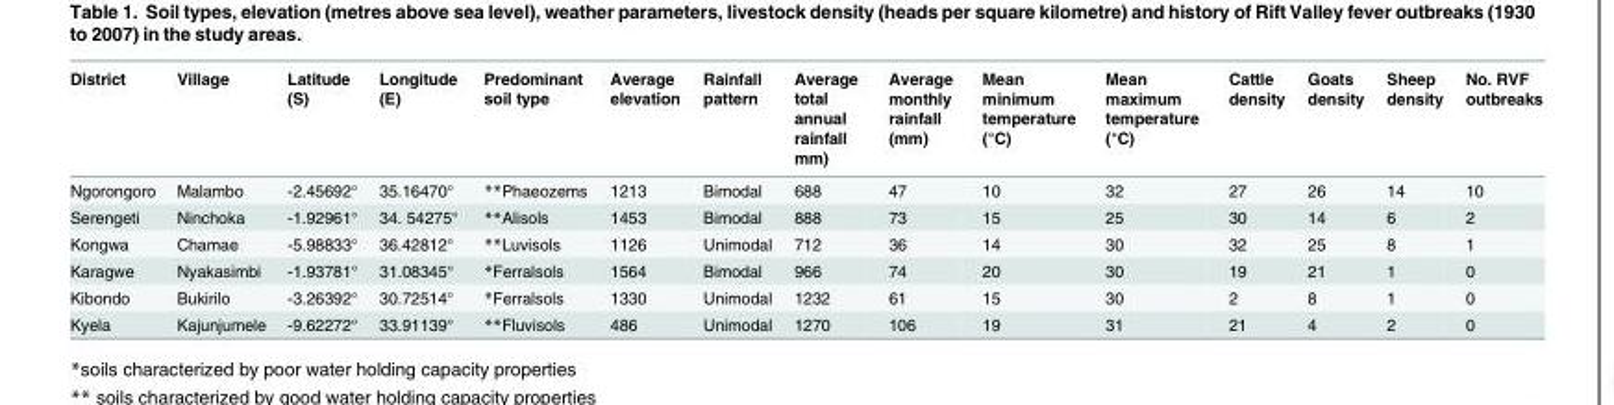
<table><thead><tr><td>District</td><td>Village</td><td>Latitude (S)</td><td>Longitude (E)</td><td>Predominant soil type</td><td>Average elevation</td><td>Rainfall pattern</td><td>Average total annual rainfall mm)</td><td>Average monthly rainfall (mm)</td><td>Mean minimum temperature (°C)</td><td>Mean maximum temperature (°C)</td><td>Cattle density</td><td>Goats density</td><td>Sheep density</td><td>No. RVF outbreaks</td></tr></thead><tbody><tr><td>Ngorongoro</td><td>Malambo</td><td>-2.45692°</td><td>35.16470°</td><td>**Phaeozems</td><td>1213</td><td>Bimodal</td><td>688</td><td>47</td><td>10</td><td>32</td><td>27</td><td>26</td><td>14</td><td>10</td></tr><tr><td>Serengeti</td><td>Ninchoka</td><td>-1.92961°</td><td>34. 54275°</td><td>**Alisols</td><td>1453</td><td>Bimodal</td><td>888</td><td>73</td><td>15</td><td>25</td><td>30</td><td>14</td><td>6</td><td>2</td></tr><tr><td>Kongwa</td><td>Chamae</td><td>-5.98833°</td><td>36.42812°</td><td>**Luvisols</td><td>1126</td><td>Unimodal</td><td>712</td><td>36</td><td>14</td><td>30</td><td>32</td><td>25</td><td>8</td><td>1</td></tr><tr><td>Karagwe</td><td>Nyakasimbi</td><td>-1.93781°</td><td>31.08345°</td><td>*Ferralsols</td><td>1564</td><td>Bimodal</td><td>966</td><td>74</td><td>20</td><td>30</td><td>19</td><td>21</td><td>1</td><td>0</td></tr><tr><td>Kibondo</td><td>Bukirilo</td><td>-3.26392°</td><td>30.72514°</td><td>*Ferralsols</td><td>1330</td><td>Unimodal</td><td>1232</td><td>61</td><td>15</td><td>30</td><td>2</td><td>8</td><td>1</td><td>0</td></tr><tr><td>Kyela</td><td>Kajunjumele</td><td>-9.62272°</td><td>33.91139°</td><td>**Fluvisols</td><td>486</td><td>Unimodal</td><td>1270</td><td>106</td><td>19</td><td>31</td><td>21</td><td>4</td><td>2</td><td>0</td></tr></tbody></table>